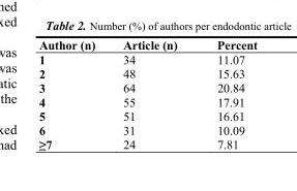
<table><thead><tr><td>Author (n)</td><td>Article (n)</td><td>Percent</td></tr></thead><tbody><tr><td>1</td><td>34</td><td>11.07</td></tr><tr><td>2</td><td>48</td><td>15.63</td></tr><tr><td>3</td><td>64</td><td>20.84</td></tr><tr><td>4</td><td>55</td><td>17.91</td></tr><tr><td>5</td><td>51</td><td>16.61</td></tr><tr><td>6</td><td>31</td><td>10.09</td></tr><tr><td>≥7</td><td>24</td><td>7.81</td></tr></tbody></table>